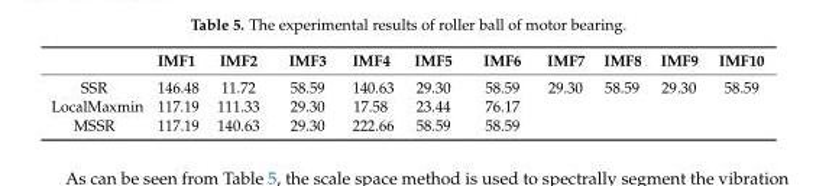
<table><thead><tr><td></td><td>IMF1</td><td>IMF2</td><td>IMF3</td><td>IMF4</td><td>IMF5</td><td>IMF6</td><td>IMF7</td><td>IMF8</td><td>IMF9</td><td>IMF10</td></tr></thead><tbody><tr><td>SSR</td><td>146.48</td><td>11.72</td><td>58.59</td><td>140.63</td><td>29.30</td><td>58.59</td><td>29.30</td><td>58.59</td><td>29.30</td><td>58.59</td></tr><tr><td>LocalMaxmin</td><td>117.19</td><td>111.33</td><td>29.30</td><td>17.58</td><td>23.44</td><td>76.17</td><td></td><td></td><td></td><td></td></tr><tr><td>MSSR</td><td>117.19</td><td>140.63</td><td>29.30</td><td>222.66</td><td>58.59</td><td>58.59</td><td></td><td></td><td></td><td></td></tr></tbody></table>